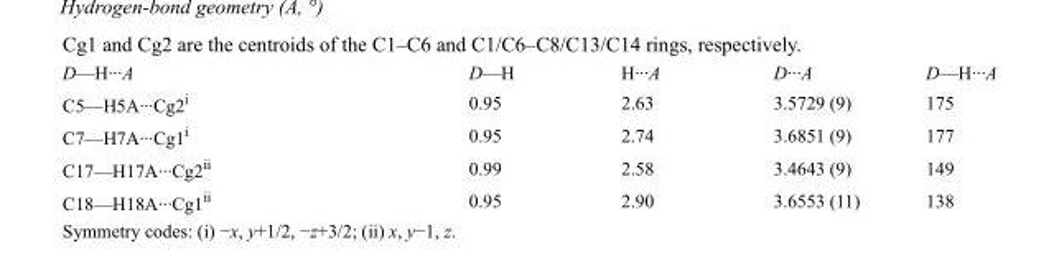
<table><tbody><tr><td>D—H···A</td><td>D—H</td><td>H···A</td><td>D···A</td><td>D—H···A</td></tr><tr><td>C5—H5A···Cg2<sup>i</sup></td><td>0.95</td><td>2.63</td><td>3.5729 (9)</td><td>175</td></tr><tr><td>C7—H7A···Cg1<sup>i</sup></td><td>0.95</td><td>2.74</td><td>3.6851 (9)</td><td>177</td></tr><tr><td>C17—H17A···Cg2<sup>ii</sup></td><td>0.99</td><td>2.58</td><td>3.4643 (9)</td><td>149</td></tr><tr><td>C18—H18A···Cg1<sup>ii</sup></td><td>0.95</td><td>2.90</td><td>3.6553 (11)</td><td>138</td></tr></tbody></table>